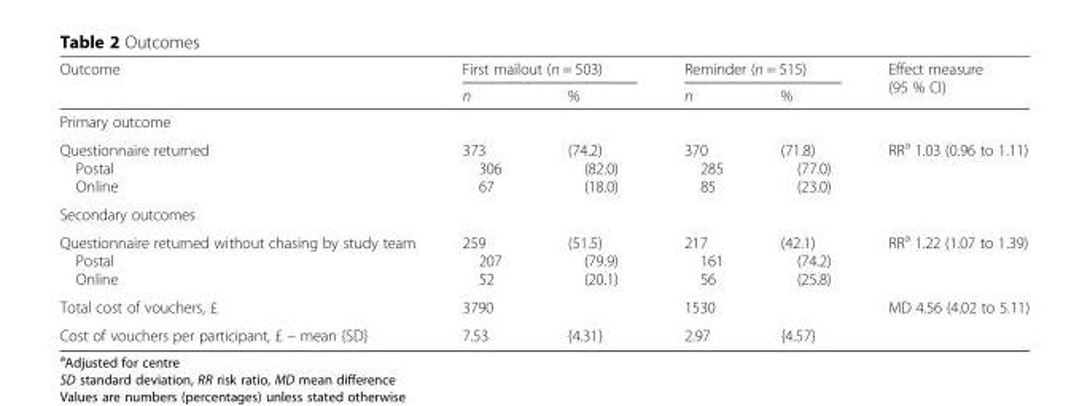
<table><thead><tr><td rowspan="2">Outcome</td><td colspan="2">First mailout (n = 503)</td><td colspan="2">Reminder (n = 515)</td><td rowspan="2">Effect measure (95 % CI)</td></tr><tr><td>n</td><td>%</td><td>n</td><td>%</td></tr></thead><tbody><tr><td colspan="6">Primary outcome</td></tr><tr><td>Questionnaire returned Postal Online</td><td>373 306 67</td><td>(74.2) (82.0) (18.0)</td><td>370 285 85</td><td>(71.8) (77.0) (23.0)</td><td>RR<sup>a</sup> 1.03 (0.96 to 1.11)</td></tr><tr><td colspan="6">Secondary outcomes</td></tr><tr><td>Questionnaire returned without chasing by study team Postal Online</td><td>259 207 52</td><td>(51.5) (79.9) (20.1)</td><td>217 161 56</td><td>(42.1) (74.2) (25.8)</td><td>RR<sup>a</sup> 1.22 (1.07 to 1.39)</td></tr><tr><td>Total cost of vouchers, £</td><td>3790</td><td></td><td>1530</td><td></td><td>MD 4.56 (4.02 to 5.11)</td></tr><tr><td>Cost of vouchers per participant, £ – mean {SD}</td><td>7.53</td><td>{4.31}</td><td>2.97</td><td>{4.57}</td><td></td></tr></tbody></table>